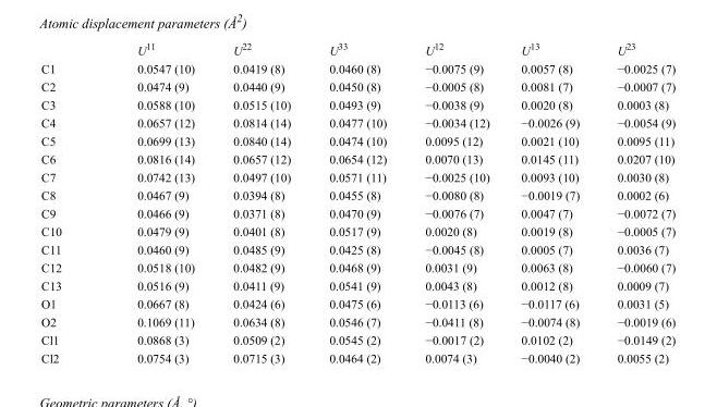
<table><thead><tr><td></td><td>U<sup>11</sup></td><td>U<sup>22</sup></td><td>U<sup>33</sup></td><td>U<sup>12</sup></td><td>U<sup>13</sup></td><td>U<sup>23</sup></td></tr></thead><tbody><tr><td>C1</td><td>0.0547 (10)</td><td>0.0419 (8)</td><td>0.0460 (8)</td><td>−0.0075 (9)</td><td>0.0057 (8)</td><td>−0.0025 (7)</td></tr><tr><td>C2</td><td>0.0474 (9)</td><td>0.0440 (9)</td><td>0.0450 (8)</td><td>−0.0005 (8)</td><td>0.0081 (7)</td><td>−0.0007 (7)</td></tr><tr><td>C3</td><td>0.0588 (10)</td><td>0.0515 (10)</td><td>0.0493 (9)</td><td>−0.0038 (9)</td><td>0.0020 (8)</td><td>0.0003 (8)</td></tr><tr><td>C4</td><td>0.0657 (12)</td><td>0.0814 (14)</td><td>0.0477 (10)</td><td>−0.0034 (12)</td><td>−0.0026 (9)</td><td>−0.0054 (9)</td></tr><tr><td>C5</td><td>0.0699 (13)</td><td>0.0840 (14)</td><td>0.0474 (10)</td><td>0.0095 (12)</td><td>0.0021 (10)</td><td>0.0095 (11)</td></tr><tr><td>C6</td><td>0.0816 (14)</td><td>0.0657 (12)</td><td>0.0654 (12)</td><td>0.0070 (13)</td><td>0.0145 (11)</td><td>0.0207 (10)</td></tr><tr><td>C7</td><td>0.0742 (13)</td><td>0.0497 (10)</td><td>0.0571 (11)</td><td>−0.0025 (10)</td><td>0.0093 (10)</td><td>0.0030 (8)</td></tr><tr><td>C8</td><td>0.0467 (9)</td><td>0.0394 (8)</td><td>0.0455 (8)</td><td>−0.0080 (8)</td><td>−0.0019 (7)</td><td>0.0002 (6)</td></tr><tr><td>C9</td><td>0.0466 (9)</td><td>0.0371 (8)</td><td>0.0470 (9)</td><td>−0.0076 (7)</td><td>0.0047 (7)</td><td>−0.0072 (7)</td></tr><tr><td>C10</td><td>0.0479 (9)</td><td>0.0401 (8)</td><td>0.0517 (9)</td><td>0.0020 (8)</td><td>0.0019 (8)</td><td>−0.0005 (7)</td></tr><tr><td>C11</td><td>0.0460 (9)</td><td>0.0485 (9)</td><td>0.0425 (8)</td><td>−0.0045 (8)</td><td>0.0005 (7)</td><td>0.0036 (7)</td></tr><tr><td>C12</td><td>0.0518 (10)</td><td>0.0482 (9)</td><td>0.0468 (9)</td><td>0.0031 (9)</td><td>0.0063 (8)</td><td>−0.0060 (7)</td></tr><tr><td>C13</td><td>0.0516 (9)</td><td>0.0411 (9)</td><td>0.0541 (9)</td><td>0.0043 (8)</td><td>0.0012 (8)</td><td>0.0009 (7)</td></tr><tr><td>O1</td><td>0.0667 (8)</td><td>0.0424 (6)</td><td>0.0475 (6)</td><td>−0.0113 (6)</td><td>−0.0117 (6)</td><td>0.0031 (5)</td></tr><tr><td>O2</td><td>0.1069 (11)</td><td>0.0634 (8)</td><td>0.0546 (7)</td><td>−0.0411 (8)</td><td>−0.0074 (8)</td><td>−0.0019 (6)</td></tr><tr><td>Cl1</td><td>0.0868 (3)</td><td>0.0509 (2)</td><td>0.0545 (2)</td><td>−0.0017 (2)</td><td>0.0102 (2)</td><td>−0.0149 (2)</td></tr><tr><td>Cl2</td><td>0.0754 (3)</td><td>0.0715 (3)</td><td>0.0464 (2)</td><td>0.0074 (3)</td><td>−0.0040 (2)</td><td>0.0055 (2)</td></tr></tbody></table>